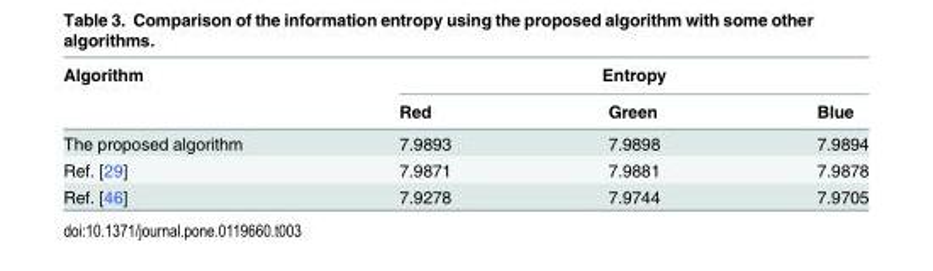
<table><thead><tr><td rowspan="2">Algorithm</td><td colspan="3">Entropy</td></tr><tr><td>Red</td><td>Green</td><td>Blue</td></tr></thead><tbody><tr><td>The proposed algorithm</td><td>7.9893</td><td>7.9898</td><td>7.9894</td></tr><tr><td>Ref. [29]</td><td>7.9871</td><td>7.9881</td><td>7.9878</td></tr><tr><td>Ref. [46]</td><td>7.9278</td><td>7.9744</td><td>7.9705</td></tr></tbody></table>